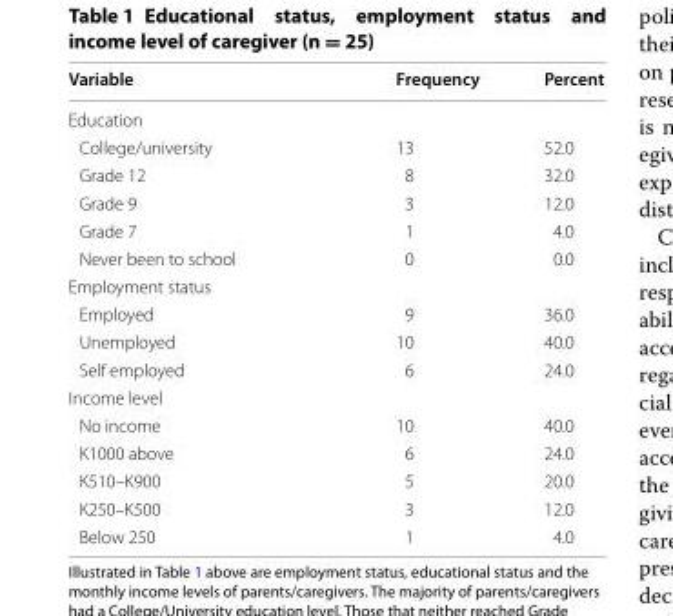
<table><thead><tr><td>Variable</td><td>Frequency</td><td>Percent</td></tr></thead><tbody><tr><td colspan="3">Education</td></tr><tr><td>College/university</td><td>13</td><td>52.0</td></tr><tr><td>Grade 12</td><td>8</td><td>32.0</td></tr><tr><td>Grade 9</td><td>3</td><td>12.0</td></tr><tr><td>Grade 7</td><td>1</td><td>4.0</td></tr><tr><td>Never been to school</td><td>0</td><td>0.0</td></tr><tr><td colspan="3">Employment status</td></tr><tr><td>Employed</td><td>9</td><td>36.0</td></tr><tr><td>Unemployed</td><td>10</td><td>40.0</td></tr><tr><td>Self employed</td><td>6</td><td>24.0</td></tr><tr><td colspan="3">Income level</td></tr><tr><td>No income</td><td>10</td><td>40.0</td></tr><tr><td>K1000 above</td><td>6</td><td>24.0</td></tr><tr><td>K510–K900</td><td>5</td><td>20.0</td></tr><tr><td>K250–K500</td><td>3</td><td>12.0</td></tr><tr><td>Below 250</td><td>1</td><td>4.0</td></tr></tbody></table>